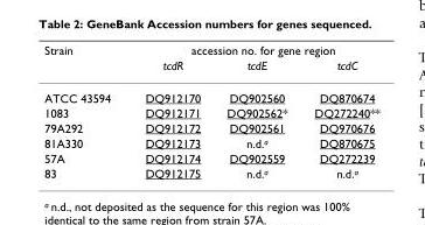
<table><thead><tr><td rowspan="2">Strain</td><td colspan="3">accession no. for gene region</td></tr><tr><td>tcdR</td><td>tcdE</td><td>tcdC</td></tr></thead><tbody><tr><td>ATCC 43594</td><td>DQ912170</td><td>DQ902560</td><td>DQ870674</td></tr><tr><td>1083</td><td>DQ912171</td><td>DQ902562*</td><td>DQ272240**</td></tr><tr><td>79A292</td><td>DQ912172</td><td>DQ902561</td><td>DQ970676</td></tr><tr><td>81A330</td><td>DQ912173</td><td>n.d.<sup>a</sup></td><td>DQ870675</td></tr><tr><td>57A</td><td>DQ912174</td><td>DQ902559</td><td>DQ272239</td></tr><tr><td>83</td><td>DQ912175</td><td>n.d.<sup>a</sup></td><td>n.d.<sup>a</sup></td></tr></tbody></table>